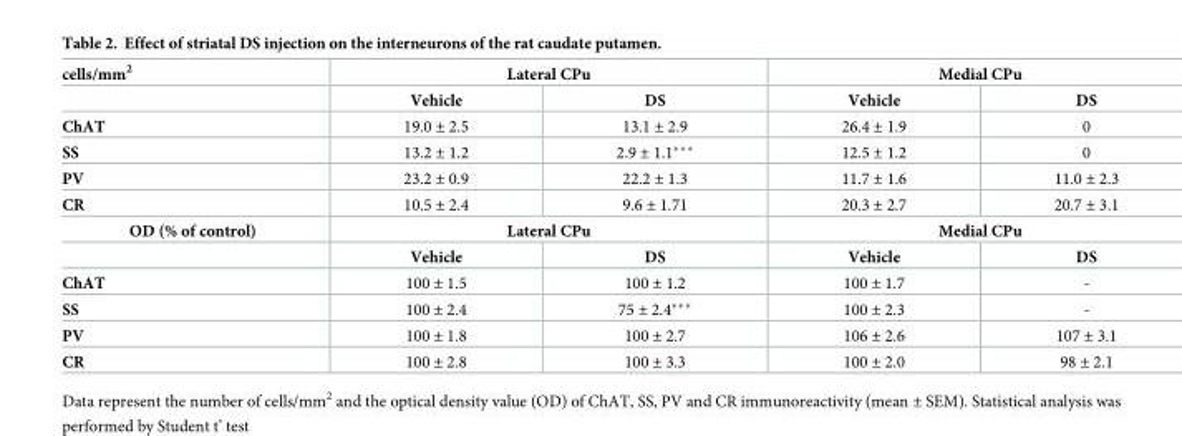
<table><tbody><tr><td rowspan="2">cells/mm<sup>2</sup></td><td colspan="2">Lateral CPu</td><td colspan="2">Medial CPu</td></tr><tr><td>Vehicle</td><td>DS</td><td>Vehicle</td><td>DS</td></tr><tr><td>ChAT</td><td>19.0 ± 2.5</td><td>13.1 ± 2.9</td><td>26.4 ± 1.9</td><td>0</td></tr><tr><td>SS</td><td>13.2 ± 1.2</td><td>2.9 ± 1.1***</td><td>12.5 ± 1.2</td><td>0</td></tr><tr><td>PV</td><td>23.2 ± 0.9</td><td>22.2 ± 1.3</td><td>11.7 ± 1.6</td><td>11.0 ± 2.3</td></tr><tr><td>CR</td><td>10.5 ± 2.4</td><td>9.6 ± 1.71</td><td>20.3 ± 2.7</td><td>20.7 ± 3.1</td></tr><tr><td rowspan="2">OD (% of control)</td><td colspan="2">Lateral CPu</td><td colspan="2">Medial CPu</td></tr><tr><td>Vehicle</td><td>DS</td><td>Vehicle</td><td>DS</td></tr><tr><td>ChAT</td><td>100 ± 1.5</td><td>100 ± 1.2</td><td>100 ± 1.7</td><td>-</td></tr><tr><td>SS</td><td>100 ± 2.4</td><td>75 ± 2.4***</td><td>100 ± 2.3</td><td>-</td></tr><tr><td>PV</td><td>100 ± 1.8</td><td>100 ± 2.7</td><td>106 ± 2.6</td><td>107 ± 3.1</td></tr><tr><td>CR</td><td>100 ± 2.8</td><td>100 ± 3.3</td><td>100 ± 2.0</td><td>98 ± 2.1</td></tr></tbody></table>